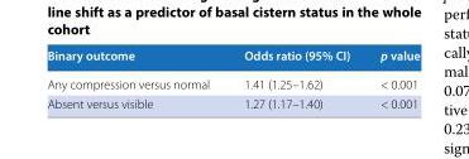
<table><thead><tr><td>Binary outcome</td><td>Odds ratio (95% CI)</td><td>p value</td></tr></thead><tbody><tr><td>Any compression versus normal</td><td>1.41 (1.25–1.62)</td><td>&lt; 0.001</td></tr><tr><td>Absent versus visible</td><td>1.27 (1.17–1.40)</td><td>&lt; 0.001</td></tr></tbody></table>